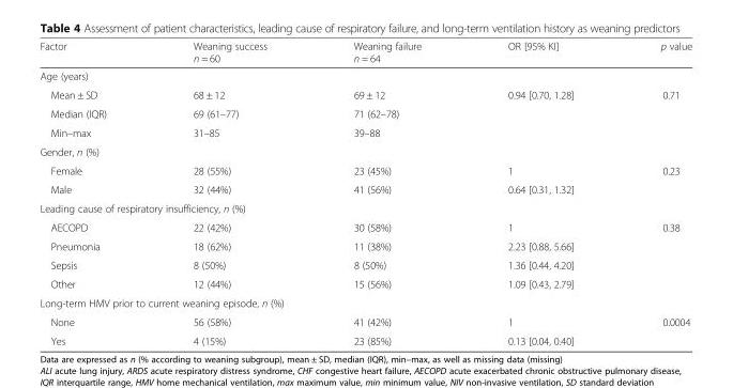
<table><thead><tr><td>Factor</td><td>Weaning success n = 60</td><td>Weaning failure n = 64</td><td>OR [95% KI]</td><td>p value</td></tr></thead><tbody><tr><td colspan="5">Age (years)</td></tr><tr><td>Mean ± SD</td><td>68 ± 12</td><td>69 ± 12</td><td>0.94 [0.70, 1.28]</td><td>0.71</td></tr><tr><td>Median (IQR)</td><td>69 (61–77)</td><td>71 (62–78)</td><td></td><td></td></tr><tr><td>Min–max</td><td>31–85</td><td>39–88</td><td></td><td></td></tr><tr><td colspan="5">Gender, n (%)</td></tr><tr><td>Female</td><td>28 (55%)</td><td>23 (45%)</td><td>1</td><td>0.23</td></tr><tr><td>Male</td><td>32 (44%)</td><td>41 (56%)</td><td>0.64 [0.31, 1.32]</td><td></td></tr><tr><td colspan="5">Leading cause of respiratory insufficiency, n (%)</td></tr><tr><td>AECOPD</td><td>22 (42%)</td><td>30 (58%)</td><td>1</td><td>0.38</td></tr><tr><td>Pneumonia</td><td>18 (62%)</td><td>11 (38%)</td><td>2.23 [0.88, 5.66]</td><td></td></tr><tr><td>Sepsis</td><td>8 (50%)</td><td>8 (50%)</td><td>1.36 [0.44, 4.20]</td><td></td></tr><tr><td>Other</td><td>12 (44%)</td><td>15 (56%)</td><td>1.09 [0.43, 2.79]</td><td></td></tr><tr><td colspan="5">Long-term HMV prior to current weaning episode, n (%)</td></tr><tr><td>None</td><td>56 (58%)</td><td>41 (42%)</td><td>1</td><td>0.0004</td></tr><tr><td>Yes</td><td>4 (15%)</td><td>23 (85%)</td><td>0.13 [0.04, 0.40]</td><td></td></tr></tbody></table>